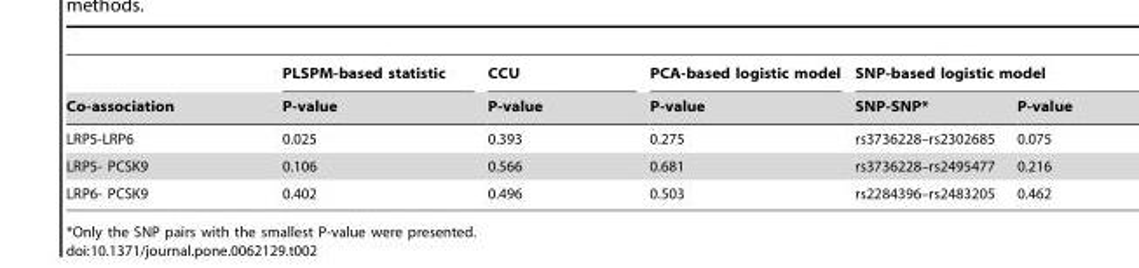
<table><thead><tr><td rowspan="2">Co-association</td><td rowspan="2">PLSPM-based statistic P-value</td><td rowspan="2">CCU P-value</td><td rowspan="2">PCA-based logistic model P-value</td><td colspan="2">SNP-based logistic model</td></tr><tr><td>SNP-SNP*</td><td>P-value</td></tr></thead><tbody><tr><td>LRP5-LRP6</td><td>0.025</td><td>0.393</td><td>0.275</td><td>rs3736228–rs2302685</td><td>0.075</td></tr><tr><td>LRP5- PCSK9</td><td>0.106</td><td>0.566</td><td>0.681</td><td>rs3736228–rs2495477</td><td>0.216</td></tr><tr><td>LRP6- PCSK9</td><td>0.402</td><td>0.496</td><td>0.503</td><td>rs2284396–rs2483205</td><td>0.462</td></tr></tbody></table>